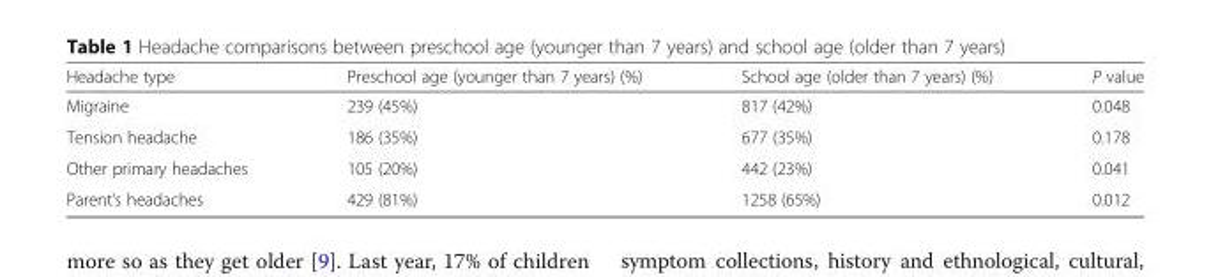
<table><thead><tr><td>Headache type</td><td>Preschool age (younger than 7 years) (%)</td><td>School age (older than 7 years) (%)</td><td>P value</td></tr></thead><tbody><tr><td>Migraine</td><td>239 (45%)</td><td>817 (42%)</td><td>0.048</td></tr><tr><td>Tension headache</td><td>186 (35%)</td><td>677 (35%)</td><td>0.178</td></tr><tr><td>Other primary headaches</td><td>105 (20%)</td><td>442 (23%)</td><td>0.041</td></tr><tr><td>Parent’s headaches</td><td>429 (81%)</td><td>1258 (65%)</td><td>0.012</td></tr></tbody></table>